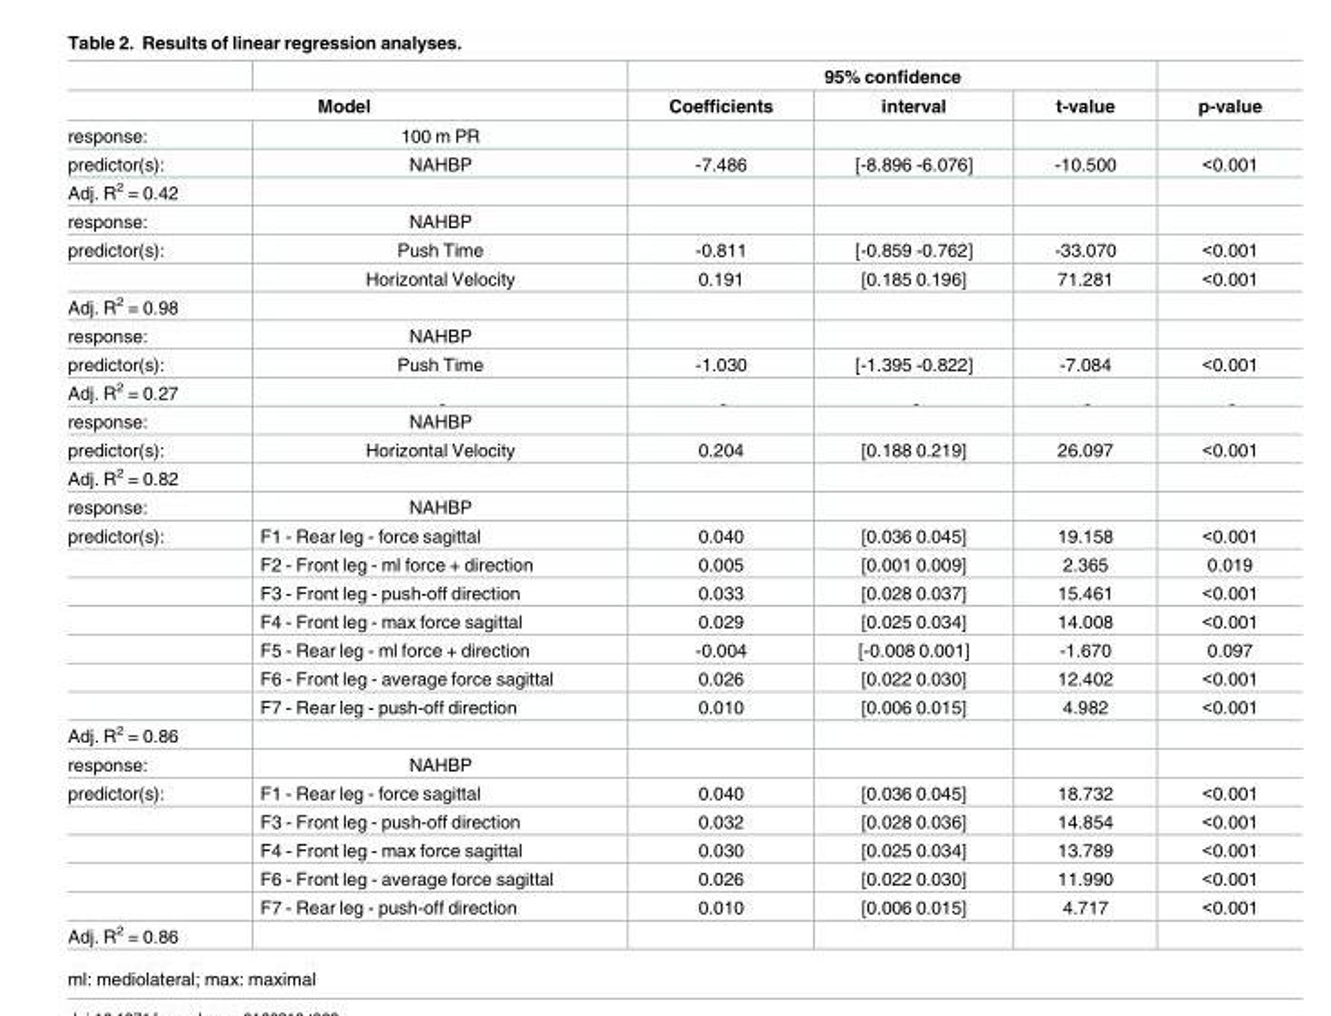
<table><thead><tr><td></td><td></td><td rowspan="2">Coefficients</td><td rowspan="2">95% confidence interval</td><td rowspan="2">t-value</td><td rowspan="2">p-value</td></tr><tr><td colspan="2">Model</td></tr></thead><tbody><tr><td>response:</td><td>100 m PR</td><td></td><td></td><td></td><td></td></tr><tr><td>predictor(s):</td><td>NAHBP</td><td>-7.486</td><td>[-8.896 -6.076]</td><td>-10.500</td><td>&lt;0.001</td></tr><tr><td colspan="6">Adj. R<sup>2</sup> = 0.42</td></tr><tr><td>response:</td><td>NAHBP</td><td></td><td></td><td></td><td></td></tr><tr><td rowspan="2">predictor(s):</td><td>Push Time</td><td>-0.811</td><td>[-0.859 -0.762]</td><td>-33.070</td><td>&lt;0.001</td></tr><tr><td>Horizontal Velocity</td><td>0.191</td><td>[0.185 0.196]</td><td>71.281</td><td>&lt;0.001</td></tr><tr><td colspan="6">Adj. R<sup>2</sup> = 0.98</td></tr><tr><td>response:</td><td>NAHBP</td><td></td><td></td><td></td><td></td></tr><tr><td>predictor(s):</td><td>Push Time</td><td>-1.030</td><td>[-1.395 -0.822]</td><td>-7.084</td><td>&lt;0.001</td></tr><tr><td colspan="6">Adj. R<sup>2</sup> = 0.27</td></tr><tr><td>response:</td><td>NAHBP</td><td></td><td></td><td></td><td></td></tr><tr><td>predictor(s):</td><td>Horizontal Velocity</td><td>0.204</td><td>[0.188 0.219]</td><td>26.097</td><td>&lt;0.001</td></tr><tr><td colspan="6">Adj. R<sup>2</sup> = 0.82</td></tr><tr><td>response:</td><td>NAHBP</td><td></td><td></td><td></td><td></td></tr><tr><td rowspan="7">predictor(s):</td><td>F1 - Rear leg - force sagittal</td><td>0.040</td><td>[0.036 0.045]</td><td>19.158</td><td>&lt;0.001</td></tr><tr><td>F2 - Front leg - ml force + direction</td><td>0.005</td><td>[0.001 0.009]</td><td>2.365</td><td>0.019</td></tr><tr><td>F3 - Front leg - push-off direction</td><td>0.033</td><td>[0.028 0.037]</td><td>15.461</td><td>&lt;0.001</td></tr><tr><td>F4 - Front leg - max force sagittal</td><td>0.029</td><td>[0.025 0.034]</td><td>14.008</td><td>&lt;0.001</td></tr><tr><td>F5 - Rear leg - ml force + direction</td><td>-0.004</td><td>[-0.008 0.001]</td><td>-1.670</td><td>0.097</td></tr><tr><td>F6 - Front leg - average force sagittal</td><td>0.026</td><td>[0.022 0.030]</td><td>12.402</td><td>&lt;0.001</td></tr><tr><td>F7 - Rear leg - push-off direction</td><td>0.010</td><td>[0.006 0.015]</td><td>4.982</td><td>&lt;0.001</td></tr><tr><td colspan="6">Adj. R<sup>2</sup> = 0.86</td></tr><tr><td>response:</td><td>NAHBP</td><td></td><td></td><td></td><td></td></tr><tr><td rowspan="5">predictor(s):</td><td>F1 - Rear leg - force sagittal</td><td>0.040</td><td>[0.036 0.045]</td><td>18.732</td><td>&lt;0.001</td></tr><tr><td>F3 - Front leg - push-off direction</td><td>0.032</td><td>[0.028 0.036]</td><td>14.854</td><td>&lt;0.001</td></tr><tr><td>F4 - Front leg - max force sagittal</td><td>0.030</td><td>[0.025 0.034]</td><td>13.789</td><td>&lt;0.001</td></tr><tr><td>F6 - Front leg - average force sagittal</td><td>0.026</td><td>[0.022 0.030]</td><td>11.990</td><td>&lt;0.001</td></tr><tr><td>F7 - Rear leg - push-off direction</td><td>0.010</td><td>[0.006 0.015]</td><td>4.717</td><td>&lt;0.001</td></tr><tr><td>Adj. R<sup>2</sup> = 0.86</td><td></td><td></td><td></td><td></td><td></td></tr></tbody></table>